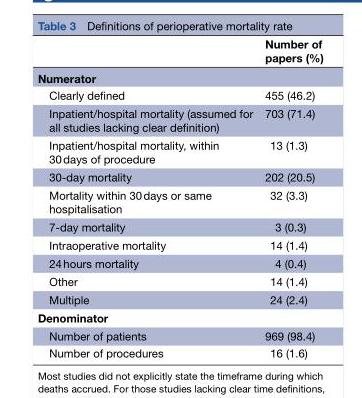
<table><thead><tr><td></td><td>Number of papers (%)</td></tr></thead><tbody><tr><td colspan="2">Numerator</td></tr><tr><td>Clearly defined</td><td>455 (46.2)</td></tr><tr><td>Inpatient/hospital mortality (assumed for all studies lacking clear definition)</td><td>703 (71.4)</td></tr><tr><td>Inpatient/hospital mortality, within 30 days of procedure</td><td>13 (1.3)</td></tr><tr><td>30-day mortality</td><td>202 (20.5)</td></tr><tr><td>Mortality within 30 days or same hospitalisation</td><td>32 (3.3)</td></tr><tr><td>7-day mortality</td><td>3 (0.3)</td></tr><tr><td>Intraoperative mortality</td><td>14 (1.4)</td></tr><tr><td>24 hours mortality</td><td>4 (0.4)</td></tr><tr><td>Other</td><td>14 (1.4)</td></tr><tr><td>Multiple</td><td>24 (2.4)</td></tr><tr><td colspan="2">Denominator</td></tr><tr><td>Number of patients</td><td>969 (98.4)</td></tr><tr><td>Number of procedures</td><td>16 (1.6)</td></tr></tbody></table>